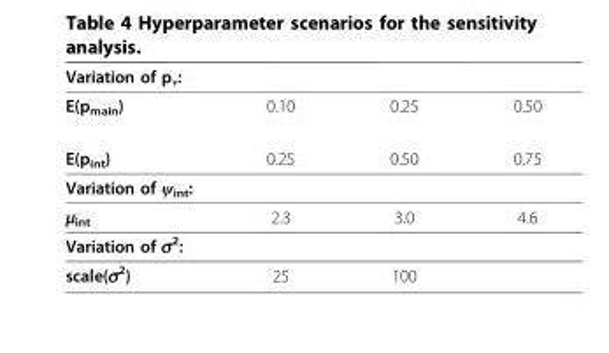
<table><thead><tr><td colspan="4">Variation of p<sub>ν</sub>:</td></tr><tr><td>E(p<sub>main</sub>)</td><td>0.10</td><td>0.25</td><td>0.50</td></tr></thead><tbody><tr><td>E(p<sub>int</sub>)</td><td>0.25</td><td>0.50</td><td>0.75</td></tr><tr><td colspan="4">Variation of ψ<sub>int</sub>:</td></tr><tr><td>μ<sub>int</sub></td><td>2.3</td><td>3.0</td><td>4.6</td></tr><tr><td colspan="4">Variation of σ<sup>2</sup>:</td></tr><tr><td>scale(σ<sup>2</sup>)</td><td>25</td><td>100</td><td></td></tr></tbody></table>